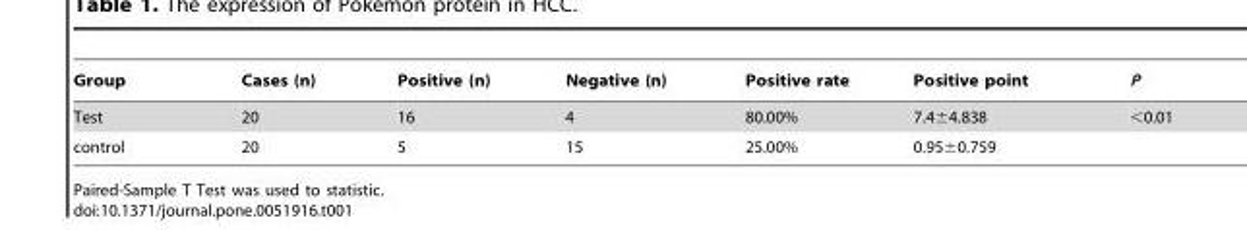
<table><thead><tr><td>Group</td><td>Cases (n)</td><td>Positive (n)</td><td>Negative (n)</td><td>Positive rate</td><td>Positive point</td><td>P</td></tr></thead><tbody><tr><td>Test</td><td>20</td><td>16</td><td>4</td><td>80.00%</td><td>7.4±4.838</td><td>&lt;0.01</td></tr><tr><td>control</td><td>20</td><td>5</td><td>15</td><td>25.00%</td><td>0.95±0.759</td><td></td></tr></tbody></table>